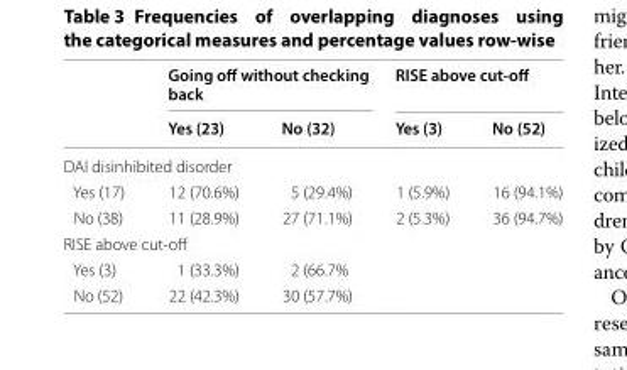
<table><thead><tr><td rowspan="2"></td><td colspan="2">Going off without checking back</td><td colspan="2">RISE above cut-off</td></tr><tr><td>Yes (23)</td><td>No (32)</td><td>Yes (3)</td><td>No (52)</td></tr></thead><tbody><tr><td colspan="5">DAI disinhibited disorder</td></tr><tr><td>Yes (17)</td><td>12 (70.6%)</td><td>5 (29.4%)</td><td>1 (5.9%)</td><td>16 (94.1%)</td></tr><tr><td>No (38)</td><td>11 (28.9%)</td><td>27 (71.1%)</td><td>2 (5.3%)</td><td>36 (94.7%)</td></tr><tr><td colspan="5">RISE above cut‑off</td></tr><tr><td>Yes (3)</td><td>1 (33.3%)</td><td>2 (66.7%</td><td></td><td></td></tr><tr><td>No (52)</td><td>22 (42.3%)</td><td>30 (57.7%)</td><td></td><td></td></tr></tbody></table>